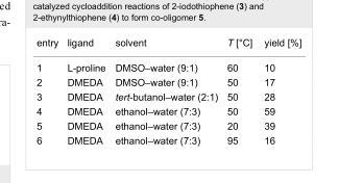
<table><tbody><tr><td>entry</td><td>ligand</td><td>solvent</td><td>T [°C]</td><td>yield [%]</td></tr><tr><td>1</td><td>L-proline</td><td>DMSO–water (9:1)</td><td>60</td><td>10</td></tr><tr><td>2</td><td>DMEDA</td><td>DMSO–water (9:1)</td><td>50</td><td>17</td></tr><tr><td>3</td><td>DMEDA</td><td>tert-butanol–water (2:1)</td><td>50</td><td>28</td></tr><tr><td>4</td><td>DMEDA</td><td>ethanol–water (7:3)</td><td>50</td><td>59</td></tr><tr><td>5</td><td>DMEDA</td><td>ethanol–water (7:3)</td><td>20</td><td>39</td></tr><tr><td>6</td><td>DMEDA</td><td>ethanol–water (7:3)</td><td>95</td><td>16</td></tr></tbody></table>